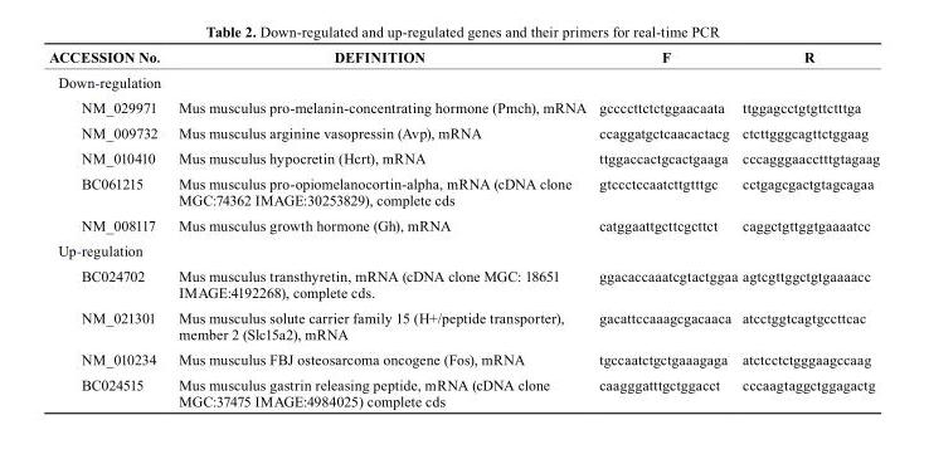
<table><thead><tr><td>ACCESSION No.</td><td>DEFINITION</td><td>F</td><td>r</td></tr></thead><tbody><tr><td colspan="4">Down-regulation</td></tr><tr><td>NM_029971</td><td>Mus musculus pro-melanin-concentrating hormone (Pmch), mRNA</td><td>gccccttctctggaacaata</td><td>ttggagcctgtgttctttga</td></tr><tr><td>NM_009732</td><td>Mus musculus arginine vasopressin (Avp), mRNA</td><td>ccaggatgctcaacactacg</td><td>ctcttgggcagttctggaag</td></tr><tr><td>NM_010410</td><td>Mus musculus hypocretin (Hcrt), mRNA</td><td>ttggaccactgcactgaaga</td><td>cccagggaacctttgtagaag</td></tr><tr><td>BC061215</td><td>Mus musculus pro-opiomelanocortin-alpha, mRNA (cDNA clone MGC:74362 IMAGE:30253829), complete cds</td><td>gtccctccaatcttgtttgc</td><td>cctgagcgactgtagcagaa</td></tr><tr><td>NM_008117</td><td>Mus musculus growth hormone (Gh), mRNA</td><td>catggaattgcttcgcttct</td><td>caggctgttggtgaaaatcc</td></tr><tr><td colspan="4">Up-regulation</td></tr><tr><td>BC024702</td><td>Mus musculus transthyretin, mRNA (cDNA clone MGC: 18651 IMAGE:4192268), complete cds.</td><td>ggacaccaaatcgtactggaa</td><td>agtcgttggctgtgaaaacc</td></tr><tr><td>NM_021301</td><td>Mus musculus solute carrier family 15 (H+/peptide transporter), member 2 (Slc15a2), mRNA</td><td>gacattccaaagcgacaaca</td><td>atcctggtcagtgccttcac</td></tr><tr><td>NM_010234</td><td>Mus musculus FBJ osteosarcoma oncogene (Fos), mRNA</td><td>tgccaatctgctgaaagaga</td><td>atctcctctgggaagccaag</td></tr><tr><td>BC024515</td><td>Mus musculus gastrin releasing peptide, mRNA (cDNA clone MGC:37475 IMAGE:4984025) complete cds</td><td>caagggatttgctggacct</td><td>cccaagtaggctggagactg</td></tr></tbody></table>